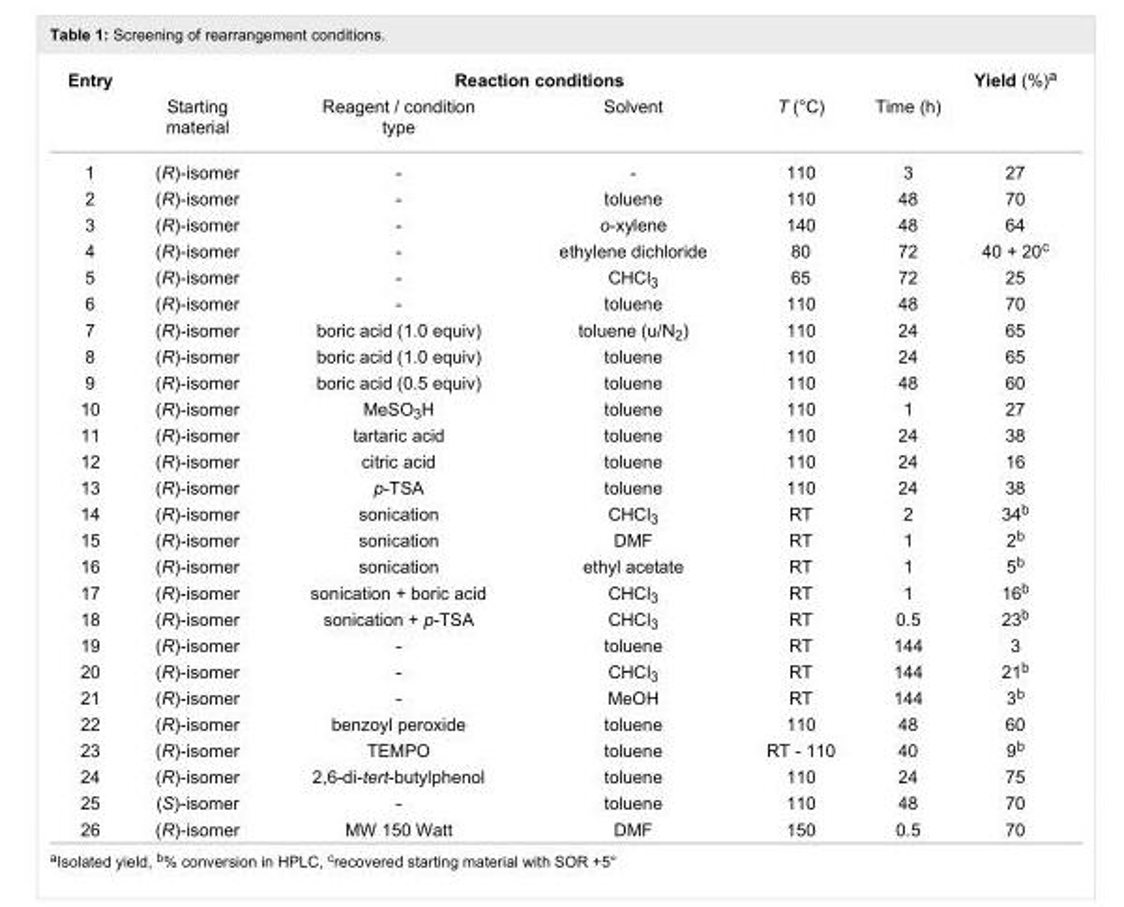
<table><tbody><tr><td rowspan="2">Entry</td><td colspan="5">Reaction conditions</td><td rowspan="2">Yield (%)<sup>a</sup></td></tr><tr><td>Starting material</td><td>Reagent / condition type</td><td>Solvent</td><td>T (°C)</td><td>Time (h)</td></tr><tr><td>1</td><td>(R)-isomer</td><td>-</td><td>-</td><td>110</td><td>3</td><td>27</td></tr><tr><td>2</td><td>(R)-isomer</td><td>-</td><td>toluene</td><td>110</td><td>48</td><td>70</td></tr><tr><td>3</td><td>(R)-isomer</td><td>-</td><td>o-xylene</td><td>140</td><td>48</td><td>64</td></tr><tr><td>4</td><td>(R)-isomer</td><td>-</td><td>ethylene dichloride</td><td>80</td><td>72</td><td>40 + 20<sup>c</sup></td></tr><tr><td>5</td><td>(R)-isomer</td><td>-</td><td>CHCl<sub>3</sub></td><td>65</td><td>72</td><td>25</td></tr><tr><td>6</td><td>(R)-isomer</td><td>-</td><td>toluene</td><td>110</td><td>48</td><td>70</td></tr><tr><td>7</td><td>(R)-isomer</td><td>boric acid (1.0 equiv)</td><td>toluene (u/N<sub>2</sub>)</td><td>110</td><td>24</td><td>65</td></tr><tr><td>8</td><td>(R)-isomer</td><td>boric acid (1.0 equiv)</td><td>toluene</td><td>110</td><td>24</td><td>65</td></tr><tr><td>9</td><td>(R)-isomer</td><td>boric acid (0.5 equiv)</td><td>toluene</td><td>110</td><td>48</td><td>60</td></tr><tr><td>10</td><td>(R)-isomer</td><td>MeSO<sub>3</sub>H</td><td>toluene</td><td>110</td><td>1</td><td>27</td></tr><tr><td>11</td><td>(R)-isomer</td><td>tartaric acid</td><td>toluene</td><td>110</td><td>24</td><td>38</td></tr><tr><td>12</td><td>(R)-isomer</td><td>citric acid</td><td>toluene</td><td>110</td><td>24</td><td>16</td></tr><tr><td>13</td><td>(R)-isomer</td><td>p-TSA</td><td>toluene</td><td>110</td><td>24</td><td>38</td></tr><tr><td>14</td><td>(R)-isomer</td><td>sonication</td><td>CHCl<sub>3</sub></td><td>RT</td><td>2</td><td>34<sup>b</sup></td></tr><tr><td>15</td><td>(R)-isomer</td><td>sonication</td><td>DMF</td><td>RT</td><td>1</td><td>2<sup>b</sup></td></tr><tr><td>16</td><td>(R)-isomer</td><td>sonication</td><td>ethyl acetate</td><td>RT</td><td>1</td><td>5<sup>b</sup></td></tr><tr><td>17</td><td>(R)-isomer</td><td>sonication + boric acid</td><td>CHCl<sub>3</sub></td><td>RT</td><td>1</td><td>16<sup>b</sup></td></tr><tr><td>18</td><td>(R)-isomer</td><td>sonication + p-TSA</td><td>CHCl<sub>3</sub></td><td>RT</td><td>0.5</td><td>23<sup>b</sup></td></tr><tr><td>19</td><td>(R)-isomer</td><td>-</td><td>toluene</td><td>RT</td><td>144</td><td>3</td></tr><tr><td>20</td><td>(R)-isomer</td><td>-</td><td>CHCl<sub>3</sub></td><td>RT</td><td>144</td><td>21<sup>b</sup></td></tr><tr><td>21</td><td>(R)-isomer</td><td>-</td><td>MeOH</td><td>RT</td><td>144</td><td>3<sup>b</sup></td></tr><tr><td>22</td><td>(R)-isomer</td><td>benzoyl peroxide</td><td>toluene</td><td>110</td><td>48</td><td>60</td></tr><tr><td>23</td><td>(R)-isomer</td><td>TEMPO</td><td>toluene</td><td>RT - 110</td><td>40</td><td>9<sup>b</sup></td></tr><tr><td>24</td><td>(R)-isomer</td><td>2,6-di-tert-butylphenol</td><td>toluene</td><td>110</td><td>24</td><td>75</td></tr><tr><td>25</td><td>(S)-isomer</td><td>-</td><td>toluene</td><td>110</td><td>48</td><td>70</td></tr><tr><td>26</td><td>(R)-isomer</td><td>MW 150 Watt</td><td>DMF</td><td>150</td><td>0.5</td><td>70</td></tr></tbody></table>